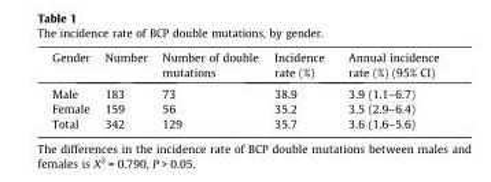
<table><thead><tr><td>Gender</td><td>Number</td><td>Number of double mutations</td><td>Incidence rate (%)</td><td>Annual incidence rate (%) (95% CI)</td></tr></thead><tbody><tr><td>Male</td><td>183</td><td>73</td><td>38.9</td><td>3.9 (1.1–6.7)</td></tr><tr><td>Female</td><td>159</td><td>56</td><td>35.2</td><td>3.5 (2.9–6.4)</td></tr><tr><td>Total</td><td>342</td><td>129</td><td>35.7</td><td>3.6 (1.6–5.6)</td></tr></tbody></table>